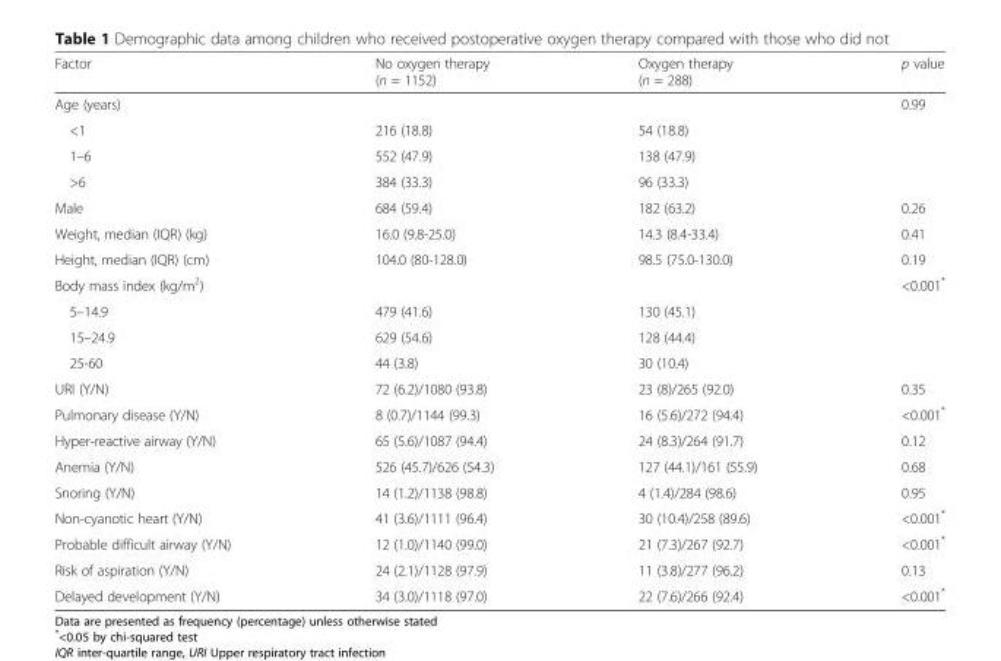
<table><thead><tr><td>Factor</td><td>No oxygen therapy (n = 1152)</td><td>Oxygen therapy (n = 288)</td><td>p value</td></tr></thead><tbody><tr><td colspan="3">Age (years)</td><td rowspan="4">0.99</td></tr><tr><td>&lt;1</td><td>216 (18.8)</td><td>54 (18.8)</td></tr><tr><td>1–6</td><td>552 (47.9)</td><td>138 (47.9)</td></tr><tr><td>&gt;6</td><td>384 (33.3)</td><td>96 (33.3)</td></tr><tr><td>Male</td><td>684 (59.4)</td><td>182 (63.2)</td><td>0.26</td></tr><tr><td>Weight, median (IQR) (kg)</td><td>16.0 (9.8-25.0)</td><td>14.3 (8.4-33.4)</td><td>0.41</td></tr><tr><td>Height, median (IQR) (cm)</td><td>104.0 (80-128.0)</td><td>98.5 (75.0-130.0)</td><td>0.19</td></tr><tr><td colspan="3">Body mass index (kg/m<sup>2</sup>)</td><td rowspan="4">&lt;0.001*</td></tr><tr><td>5–14.9</td><td>479 (41.6)</td><td>130 (45.1)</td></tr><tr><td>15–24.9</td><td>629 (54.6)</td><td>128 (44.4)</td></tr><tr><td>25-60</td><td>44 (3.8)</td><td>30 (10.4)</td></tr><tr><td>URI (Y/N)</td><td>72 (6.2)/1080 (93.8)</td><td>23 (8)/265 (92.0)</td><td>0.35</td></tr><tr><td>Pulmonary disease (Y/N)</td><td>8 (0.7)/1144 (99.3)</td><td>16 (5.6)/272 (94.4)</td><td>&lt;0.001*</td></tr><tr><td>Hyper-reactive airway (Y/N)</td><td>65 (5.6)/1087 (94.4)</td><td>24 (8.3)/264 (91.7)</td><td>0.12</td></tr><tr><td>Anemia (Y/N)</td><td>526 (45.7)/626 (54.3)</td><td>127 (44.1)/161 (55.9)</td><td>0.68</td></tr><tr><td>Snoring (Y/N)</td><td>14 (1.2)/1138 (98.8)</td><td>4 (1.4)/284 (98.6)</td><td>0.95</td></tr><tr><td>Non-cyanotic heart (Y/N)</td><td>41 (3.6)/1111 (96.4)</td><td>30 (10.4)/258 (89.6)</td><td>&lt;0.001*</td></tr><tr><td>Probable difficult airway (Y/N)</td><td>12 (1.0)/1140 (99.0)</td><td>21 (7.3)/267 (92.7)</td><td>&lt;0.001*</td></tr><tr><td>Risk of aspiration (Y/N)</td><td>24 (2.1)/1128 (97.9)</td><td>11 (3.8)/277 (96.2)</td><td>0.13</td></tr><tr><td>Delayed development (Y/N)</td><td>34 (3.0)/1118 (97.0)</td><td>22 (7.6)/266 (92.4)</td><td>&lt;0.001*</td></tr></tbody></table>